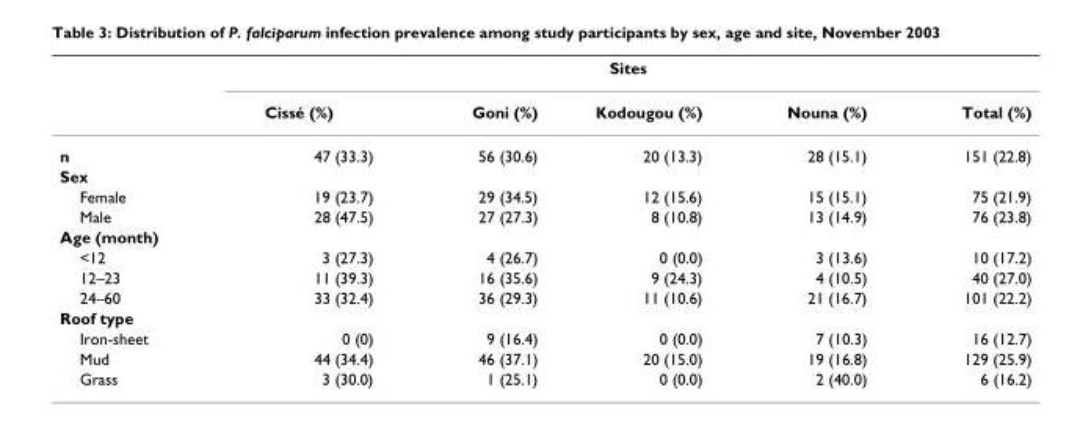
<table><thead><tr><td rowspan="2"></td><td colspan="5">Sites</td></tr><tr><td>Cissé (%)</td><td>Goni (%)</td><td>Kodougou (%)</td><td>Nouna (%)</td><td>Total (%)</td></tr></thead><tbody><tr><td>n</td><td>47 (33.3)</td><td>56 (30.6)</td><td>20 (13.3)</td><td>28 (15.1)</td><td>151 (22.8)</td></tr><tr><td colspan="6">Sex</td></tr><tr><td>Female</td><td>19 (23.7)</td><td>29 (34.5)</td><td>12 (15.6)</td><td>15 (15.1)</td><td>75 (21.9)</td></tr><tr><td>Male</td><td>28 (47.5)</td><td>27 (27.3)</td><td>8 (10.8)</td><td>13 (14.9)</td><td>76 (23.8)</td></tr><tr><td colspan="6">Age (month)</td></tr><tr><td>&lt;12</td><td>3 (27.3)</td><td>4 (26.7)</td><td>0 (0.0)</td><td>3 (13.6)</td><td>10 (17.2)</td></tr><tr><td>12–23</td><td>11 (39.3)</td><td>16 (35.6)</td><td>9 (24.3)</td><td>4 (10.5)</td><td>40 (27.0)</td></tr><tr><td>24–60</td><td>33 (32.4)</td><td>36 (29.3)</td><td>11 (10.6)</td><td>21 (16.7)</td><td>101 (22.2)</td></tr><tr><td colspan="6">Roof type</td></tr><tr><td>Iron-sheet</td><td>0 (0)</td><td>9 (16.4)</td><td>0 (0.0)</td><td>7 (10.3)</td><td>16 (12.7)</td></tr><tr><td>Mud</td><td>44 (34.4)</td><td>46 (37.1)</td><td>20 (15.0)</td><td>19 (16.8)</td><td>129 (25.9)</td></tr><tr><td>Grass</td><td>3 (30.0)</td><td>1 (25.1)</td><td>0 (0.0)</td><td>2 (40.0)</td><td>6 (16.2)</td></tr></tbody></table>